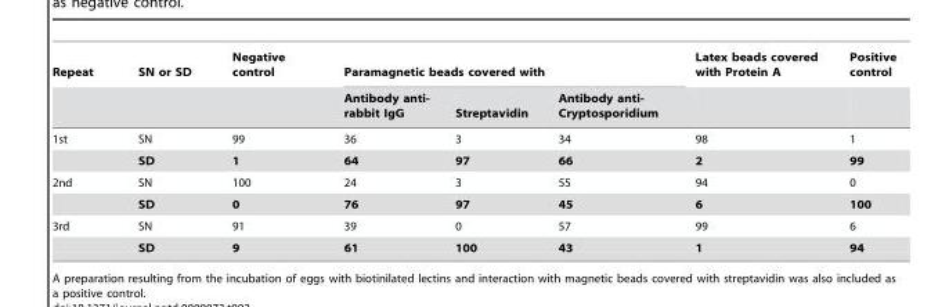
<table><thead><tr><td rowspan="2">Repeat</td><td rowspan="2">SN or SD</td><td rowspan="2">Negative control</td><td colspan="3">Paramagnetic beads covered with</td><td rowspan="2">Latex beads covered with Protein A</td><td rowspan="2">Positive control</td></tr><tr><td>Antibody anti- rabbit IgG</td><td>Streptavidin</td><td>Antibody anti- Cryptosporidium</td></tr></thead><tbody><tr><td rowspan="2">1st</td><td>SN</td><td>99</td><td>36</td><td>3</td><td>34</td><td>98</td><td>1</td></tr><tr><td>SD</td><td>1</td><td>64</td><td>97</td><td>66</td><td>2</td><td>99</td></tr><tr><td rowspan="2">2nd</td><td>SN</td><td>100</td><td>24</td><td>3</td><td>55</td><td>94</td><td>0</td></tr><tr><td>SD</td><td>0</td><td>76</td><td>97</td><td>45</td><td>6</td><td>100</td></tr><tr><td rowspan="2">3rd</td><td>SN</td><td>91</td><td>39</td><td>0</td><td>57</td><td>99</td><td>6</td></tr><tr><td>SD</td><td>9</td><td>61</td><td>100</td><td>43</td><td>1</td><td>94</td></tr></tbody></table>